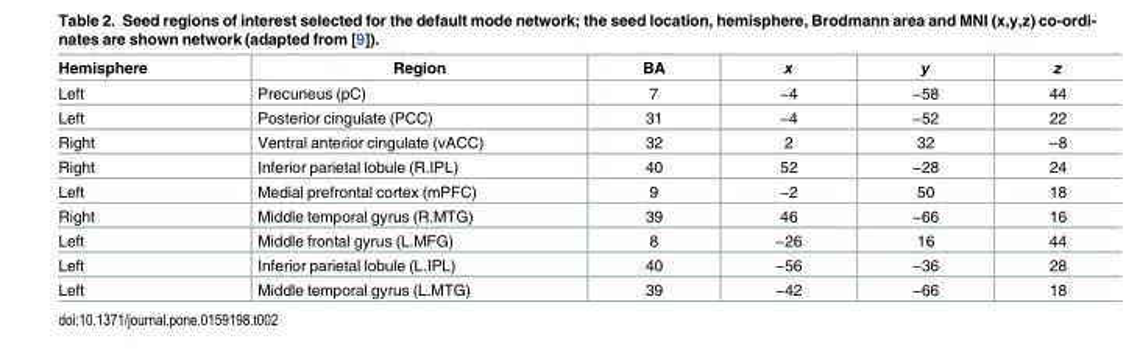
<table><thead><tr><td>Hemisphere</td><td>Region</td><td>BA</td><td>x</td><td>y</td><td>z</td></tr></thead><tbody><tr><td>Left</td><td>Precuneus (pC)</td><td>7</td><td>−4</td><td>−58</td><td>44</td></tr><tr><td>Left</td><td>Posterior cingulate (PCC)</td><td>31</td><td>−4</td><td>−52</td><td>22</td></tr><tr><td>Right</td><td>Ventral anterior cingulate (vACC)</td><td>32</td><td>2</td><td>32</td><td>−8</td></tr><tr><td>Right</td><td>Inferior parietal lobule (R.IPL)</td><td>40</td><td>52</td><td>−28</td><td>24</td></tr><tr><td>Left</td><td>Medial prefrontal cortex (mPFC)</td><td>9</td><td>−2</td><td>50</td><td>18</td></tr><tr><td>Right</td><td>Middle temporal gyrus (R.MTG)</td><td>39</td><td>46</td><td>−66</td><td>16</td></tr><tr><td>Left</td><td>Middle frontal gyrus (L.MFG)</td><td>8</td><td>−26</td><td>16</td><td>44</td></tr><tr><td>Left</td><td>Inferior parietal lobule (L.IPL)</td><td>40</td><td>−56</td><td>−36</td><td>28</td></tr><tr><td>Left</td><td>Middle temporal gyrus (L.MTG)</td><td>39</td><td>−42</td><td>−66</td><td>18</td></tr></tbody></table>